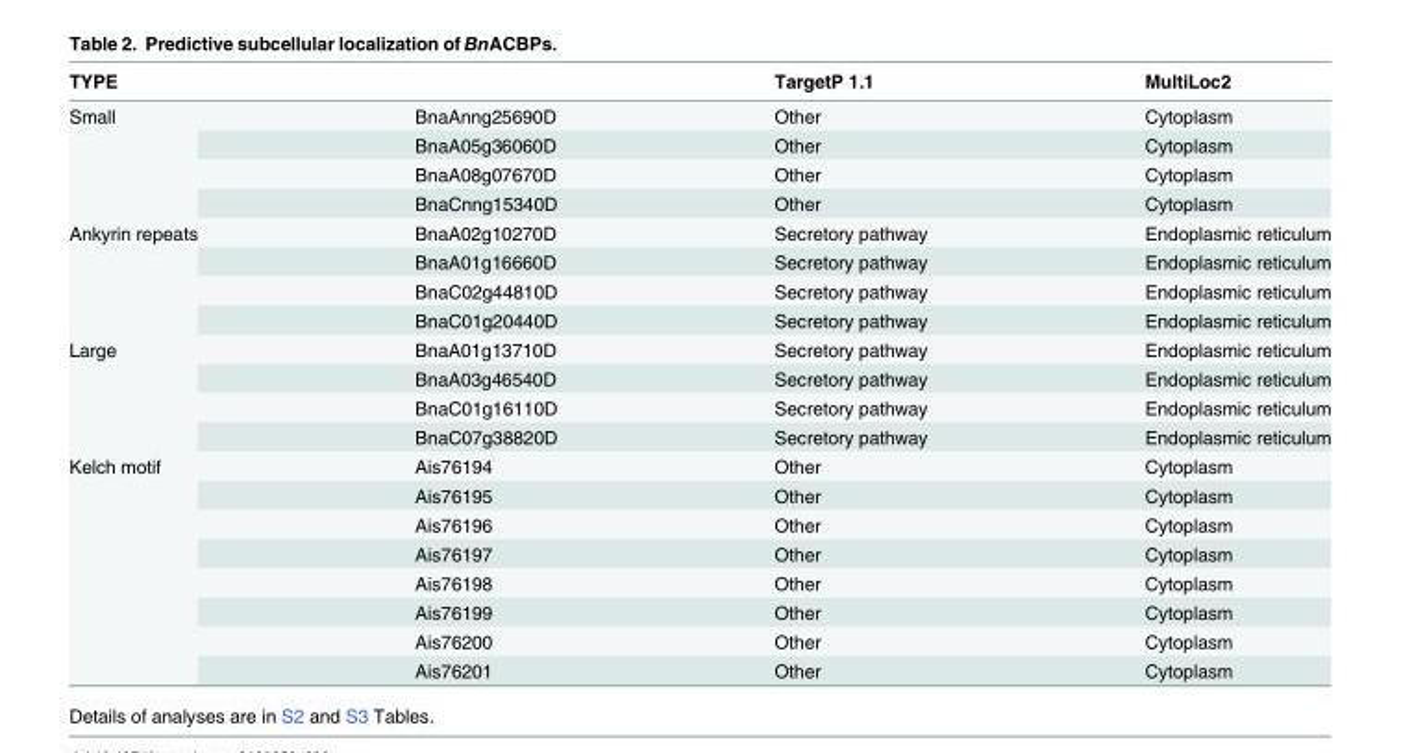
<table><thead><tr><td>TYPE</td><td></td><td>TargetP 1.1</td><td>MultiLoc2</td></tr></thead><tbody><tr><td rowspan="4">Small</td><td>BnaAnng25690D</td><td>Other</td><td>Cytoplasm</td></tr><tr><td>BnaA05g36060D</td><td>Other</td><td>Cytoplasm</td></tr><tr><td>BnaA08g07670D</td><td>Other</td><td>Cytoplasm</td></tr><tr><td>BnaCnng15340D</td><td>Other</td><td>Cytoplasm</td></tr><tr><td rowspan="4">Ankyrin repeats</td><td>BnaA02g10270D</td><td>Secretory pathway</td><td>Endoplasmic reticulum</td></tr><tr><td>BnaA01g16660D</td><td>Secretory pathway</td><td>Endoplasmic reticulum</td></tr><tr><td>BnaC02g44810D</td><td>Secretory pathway</td><td>Endoplasmic reticulum</td></tr><tr><td>BnaC01g20440D</td><td>Secretory pathway</td><td>Endoplasmic reticulum</td></tr><tr><td rowspan="4">Large</td><td>BnaA01g13710D</td><td>Secretory pathway</td><td>Endoplasmic reticulum</td></tr><tr><td>BnaA03g46540D</td><td>Secretory pathway</td><td>Endoplasmic reticulum</td></tr><tr><td>BnaC01g16110D</td><td>Secretory pathway</td><td>Endoplasmic reticulum</td></tr><tr><td>BnaC07g38820D</td><td>Secretory pathway</td><td>Endoplasmic reticulum</td></tr><tr><td rowspan="8">Kelch motif</td><td>Ais76194</td><td>Other</td><td>Cytoplasm</td></tr><tr><td>Ais76195</td><td>Other</td><td>Cytoplasm</td></tr><tr><td>Ais76196</td><td>Other</td><td>Cytoplasm</td></tr><tr><td>Ais76197</td><td>Other</td><td>Cytoplasm</td></tr><tr><td>Ais76198</td><td>Other</td><td>Cytoplasm</td></tr><tr><td>Ais76199</td><td>Other</td><td>Cytoplasm</td></tr><tr><td>Ais76200</td><td>Other</td><td>Cytoplasm</td></tr><tr><td>Ais76201</td><td>Other</td><td>Cytoplasm</td></tr></tbody></table>